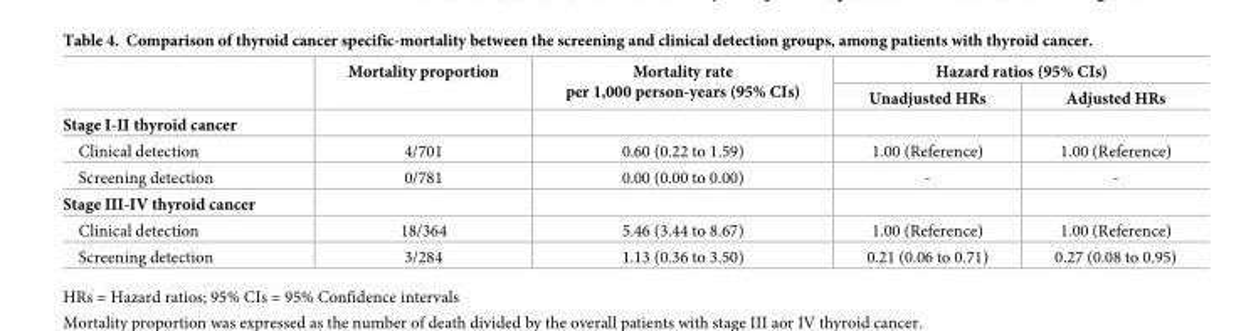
<table><thead><tr><td rowspan="2"></td><td rowspan="2">Mortality proportion</td><td rowspan="2">Mortality rate per 1,000 person-years (95% CIs)</td><td colspan="2">Hazard ratios (95% CIs)</td></tr><tr><td>Unadjusted HRs</td><td>Adjusted HRs</td></tr></thead><tbody><tr><td colspan="5">Stage I-II thyroid cancer</td></tr><tr><td>Clinical detection</td><td>4/701</td><td>0.60 (0.22 to 1.59)</td><td>1.00 (Reference)</td><td>1.00 (Reference)</td></tr><tr><td>Screening detection</td><td>0/781</td><td>0.00 (0.00 to 0.00)</td><td>-</td><td>-</td></tr><tr><td colspan="5">Stage III-IV thyroid cancer</td></tr><tr><td>Clinical detection</td><td>18/364</td><td>5.46 (3.44 to 8.67)</td><td>1.00 (Reference)</td><td>1.00 (Reference)</td></tr><tr><td>Screening detection</td><td>3/284</td><td>1.13 (0.36 to 3.50)</td><td>0.21 (0.06 to 0.71)</td><td>0.27 (0.08 to 0.95)</td></tr></tbody></table>